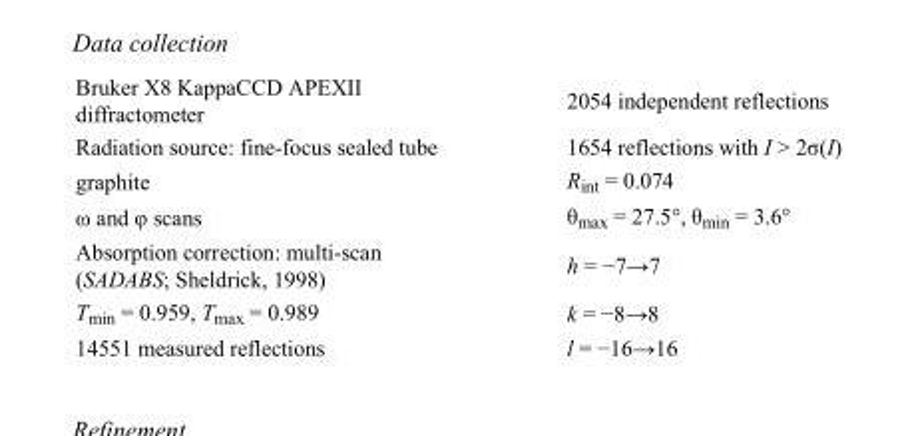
<table><tbody><tr><td>Bruker X8 KappaCCD APEXII diffractometer</td><td>2054 independent reflections</td></tr><tr><td>Radiation source: fine-focus sealed tube</td><td>1654 reflections with I &gt; 2σ(I)</td></tr><tr><td>graphite</td><td>R<sub>int</sub> = 0.074</td></tr><tr><td>ω and φ scans</td><td>θ<sub>max</sub> = 27.5°, θ<sub>min</sub> = 3.6°</td></tr><tr><td>Absorption correction: multi-scan (SADABS; Sheldrick, 1998)</td><td>h = −7→7</td></tr><tr><td>T<sub>min</sub> = 0.959, T<sub>max</sub> = 0.989</td><td>k = −8→8</td></tr><tr><td>14551 measured reflections</td><td>l = −16→16</td></tr></tbody></table>